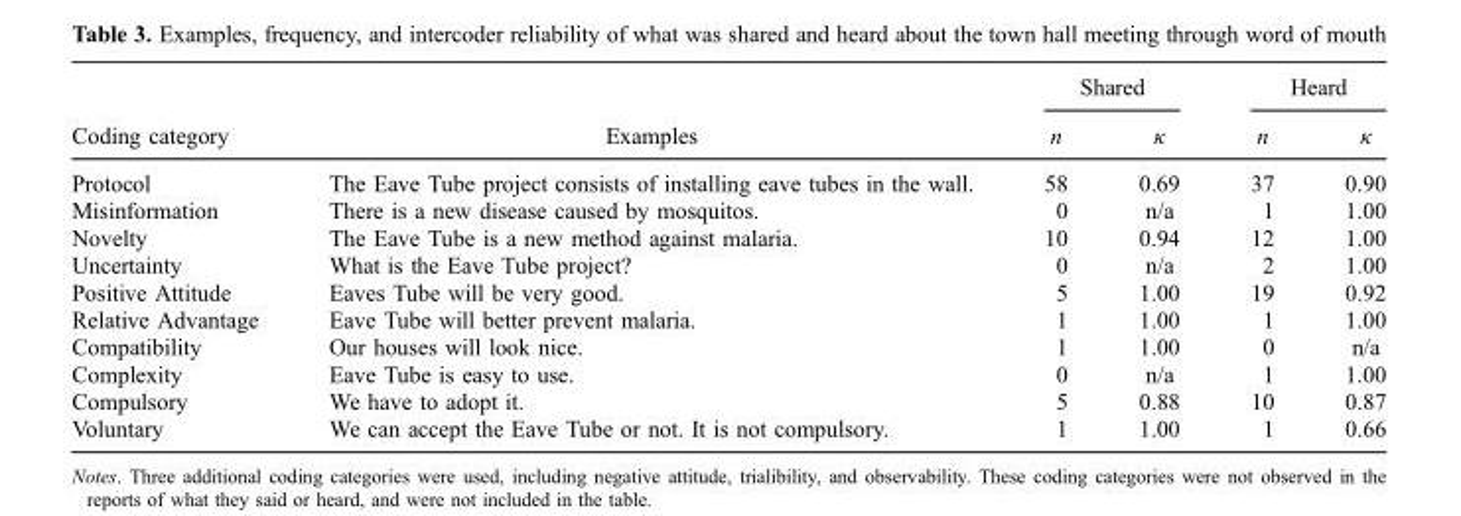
<table><thead><tr><td rowspan="2">Coding category</td><td rowspan="2">Examples</td><td colspan="2">Shared</td><td colspan="2">Heard</td></tr><tr><td>n</td><td>κ</td><td>n</td><td>κ</td></tr></thead><tbody><tr><td>Protocol</td><td>The Eave Tube project consists of installing eave tubes in the wall.</td><td>58</td><td>0.69</td><td>37</td><td>0.90</td></tr><tr><td>Misinformation</td><td>There is a new disease caused by mosquitos.</td><td>0</td><td>n/a</td><td>1</td><td>1.00</td></tr><tr><td>Novelty</td><td>The Eave Tube is a new method against malaria.</td><td>10</td><td>0.94</td><td>12</td><td>1.00</td></tr><tr><td>Uncertainty</td><td>What is the Eave Tube project?</td><td>0</td><td>n/a</td><td>2</td><td>1.00</td></tr><tr><td>Positive Attitude</td><td>Eaves Tube will be very good.</td><td>5</td><td>1.00</td><td>19</td><td>0.92</td></tr><tr><td>Relative Advantage</td><td>Eave Tube will better prevent malaria.</td><td>1</td><td>1.00</td><td>1</td><td>1.00</td></tr><tr><td>Compatibility</td><td>Our houses will look nice.</td><td>1</td><td>1.00</td><td>0</td><td>n/a</td></tr><tr><td>Complexity</td><td>Eave Tube is easy to use.</td><td>0</td><td>n/a</td><td>1</td><td>1.00</td></tr><tr><td>Compulsory</td><td>We have to adopt it.</td><td>5</td><td>0.88</td><td>10</td><td>0.87</td></tr><tr><td>Voluntary</td><td>We can accept the Eave Tube or not. It is not compulsory.</td><td>1</td><td>1.00</td><td>1</td><td>0.66</td></tr></tbody></table>